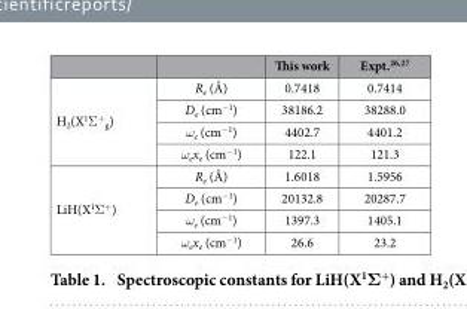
<table><thead><tr><td></td><td></td><td>This work</td><td>Expt.<sup>26</sup>,<sup>27</sup></td></tr></thead><tbody><tr><td rowspan="4">H<sub>2</sub>(X<sup>1</sup>Σ <sup>+</sup> <sub>g</sub>)</td><td>R<sub>e</sub> (Å)</td><td>0.7418</td><td>0.7414</td></tr><tr><td>D<sub>e</sub> (cm<sup>−1</sup>)</td><td>38186.2</td><td>38288.0</td></tr><tr><td>ω<sub>e</sub> (cm<sup>−1</sup>)</td><td>4402.7</td><td>4401.2</td></tr><tr><td>ω<sub>e</sub>x<sub>e</sub> (cm<sup>−1</sup>)</td><td>122.1</td><td>121.3</td></tr><tr><td rowspan="4">LiH(X<sup>1</sup>Σ <sup>+</sup>)</td><td>R<sub>e</sub> (Å)</td><td>1.6018</td><td>1.5956</td></tr><tr><td>D<sub>e</sub> (cm<sup>−1</sup>)</td><td>20132.8</td><td>20287.7</td></tr><tr><td>ω<sub>e</sub> (cm<sup>−1</sup>)</td><td>1397.3</td><td>1405.1</td></tr><tr><td>ω<sub>e</sub>x<sub>e</sub> (cm<sup>−1</sup>)</td><td>26.6</td><td>23.2</td></tr></tbody></table>